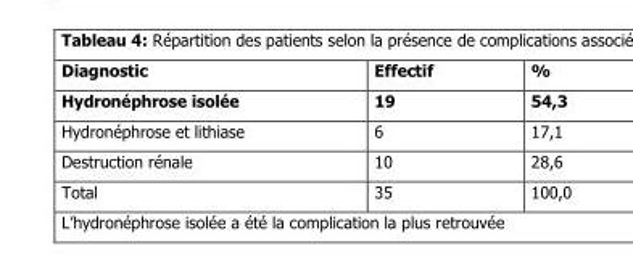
<table><thead><tr><td>Diagnostic</td><td>Effectif</td><td>%</td></tr></thead><tbody><tr><td>Hydronéphrose isolée</td><td>19</td><td>54,3</td></tr><tr><td>Hydronéphrose et lithiase</td><td>6</td><td>17,1</td></tr><tr><td>Destruction rénale</td><td>10</td><td>28,6</td></tr><tr><td>Total</td><td>35</td><td>100,0</td></tr></tbody></table>